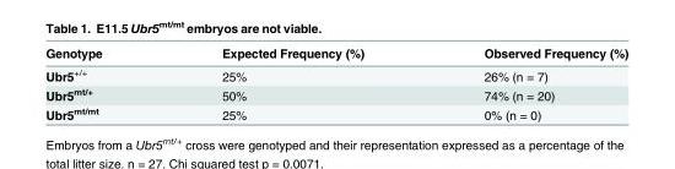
<table><thead><tr><td>Genotype</td><td>Expected Frequency (%)</td><td>Observed Frequency (%)</td></tr></thead><tbody><tr><td>Ubr5<sup>+/+</sup></td><td>25%</td><td>26% (n = 7)</td></tr><tr><td>Ubr5<sup>mt/+</sup></td><td>50%</td><td>74% (n = 20)</td></tr><tr><td>Ubr5<sup>mt/mt</sup></td><td>25%</td><td>0% (n = 0)</td></tr></tbody></table>